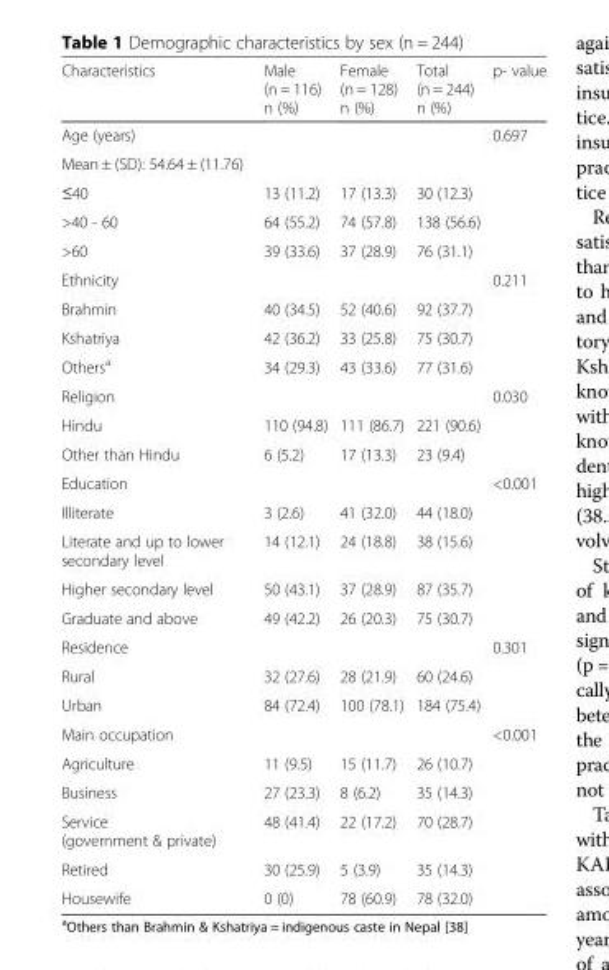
<table><thead><tr><td>Characteristics</td><td>Male (n = 116) n (%)</td><td>Female (n = 128) n (%)</td><td>Total (n = 244) n (%)</td><td>p- value</td></tr></thead><tbody><tr><td colspan="4">Age (years)</td><td rowspan="5">0.697</td></tr><tr><td colspan="4">Mean ± (SD): 54.64 ± (11.76)</td></tr><tr><td>≤40</td><td>13 (11.2)</td><td>17 (13.3)</td><td>30 (12.3)</td></tr><tr><td>&gt;40 - 60</td><td>64 (55.2)</td><td>74 (57.8)</td><td>138 (56.6)</td></tr><tr><td>&gt;60</td><td>39 (33.6)</td><td>37 (28.9)</td><td>76 (31.1)</td></tr><tr><td colspan="4">Ethnicity</td><td rowspan="4">0.211</td></tr><tr><td>Brahmin</td><td>40 (34.5)</td><td>52 (40.6)</td><td>92 (37.7)</td></tr><tr><td>Kshatriya</td><td>42 (36.2)</td><td>33 (25.8)</td><td>75 (30.7)</td></tr><tr><td>Others<sup>a</sup></td><td>34 (29.3)</td><td>43 (33.6)</td><td>77 (31.6)</td></tr><tr><td colspan="4">Religion</td><td rowspan="3">0.030</td></tr><tr><td>Hindu</td><td>110 (94.8)</td><td>111 (86.7)</td><td>221 (90.6)</td></tr><tr><td>Other than Hindu</td><td>6 (5.2)</td><td>17 (13.3)</td><td>23 (9.4)</td></tr><tr><td colspan="4">Education</td><td rowspan="5">&lt;0.001</td></tr><tr><td>Illiterate</td><td>3 (2.6)</td><td>41 (32.0)</td><td>44 (18.0)</td></tr><tr><td>Literate and up to lower secondary level</td><td>14 (12.1)</td><td>24 (18.8)</td><td>38 (15.6)</td></tr><tr><td>Higher secondary level</td><td>50 (43.1)</td><td>37 (28.9)</td><td>87 (35.7)</td></tr><tr><td>Graduate and above</td><td>49 (42.2)</td><td>26 (20.3)</td><td>75 (30.7)</td></tr><tr><td colspan="4">Residence</td><td rowspan="3">0.301</td></tr><tr><td>Rural</td><td>32 (27.6)</td><td>28 (21.9)</td><td>60 (24.6)</td></tr><tr><td>Urban</td><td>84 (72.4)</td><td>100 (78.1)</td><td>184 (75.4)</td></tr><tr><td colspan="4">Main occupation</td><td rowspan="6">&lt;0.001</td></tr><tr><td>Agriculture</td><td>11 (9.5)</td><td>15 (11.7)</td><td>26 (10.7)</td></tr><tr><td>Business</td><td>27 (23.3)</td><td>8 (6.2)</td><td>35 (14.3)</td></tr><tr><td>Service (government &amp; private)</td><td>48 (41.4)</td><td>22 (17.2)</td><td>70 (28.7)</td></tr><tr><td>Retired</td><td>30 (25.9)</td><td>5 (3.9)</td><td>35 (14.3)</td></tr><tr><td>Housewife</td><td>0 (0)</td><td>78 (60.9)</td><td>78 (32.0)</td></tr></tbody></table>